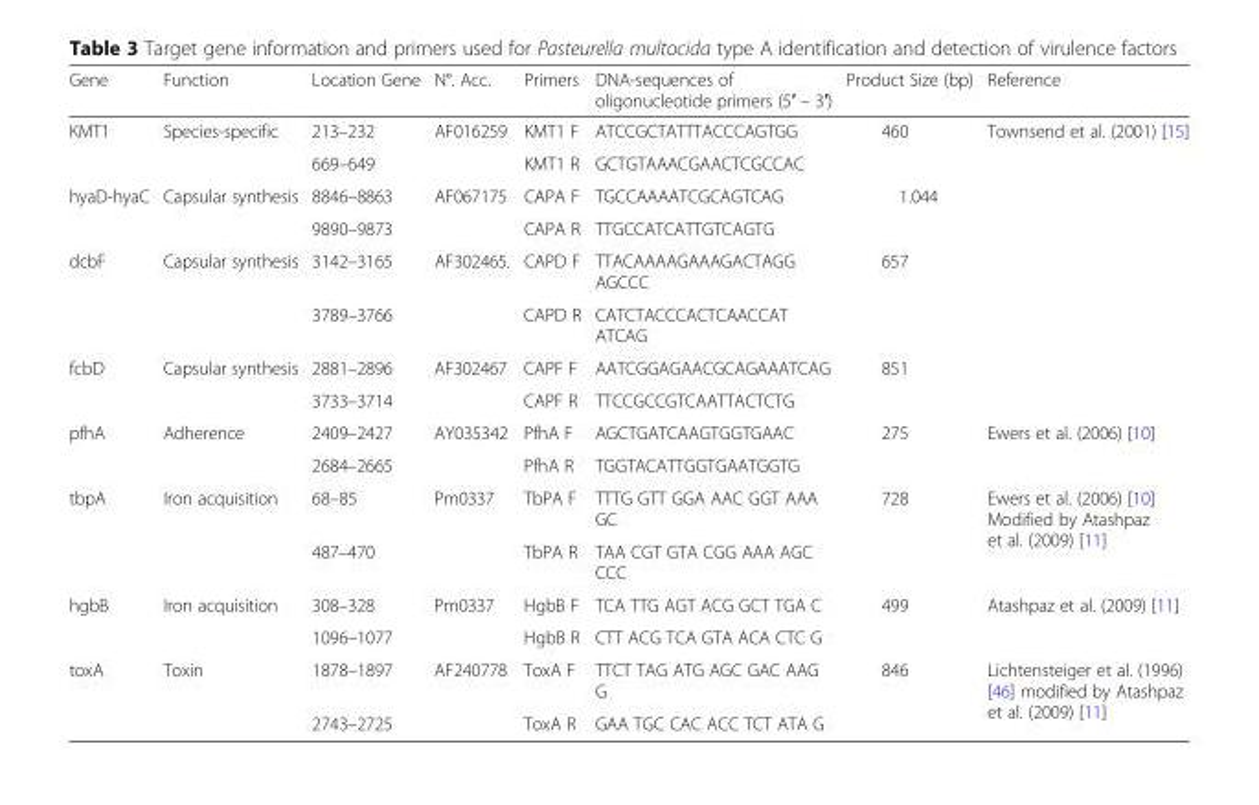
<table><thead><tr><td>Gene</td><td>Function</td><td>Location Gene</td><td>N°. Acc.</td><td>Primers</td><td>DNA-sequences of oligonucleotide primers (5′ – 3′)</td><td>Product Size (bp)</td><td>Reference</td></tr></thead><tbody><tr><td rowspan="2">KMT1</td><td rowspan="2">Species-specific</td><td>213–232</td><td rowspan="2">AF016259</td><td>KMT1 F</td><td>ATCCGCTATTTACCCAGTGG</td><td rowspan="2">460</td><td rowspan="8">Townsend et al. (2001) [15]</td></tr><tr><td>669–649</td><td>KMT1 R</td><td>GCTGTAAACGAACTCGCCAC</td></tr><tr><td rowspan="2">hyaD-hyaC</td><td rowspan="2">Capsular synthesis</td><td>8846–8863</td><td rowspan="2">AF067175</td><td>CAPA F</td><td>TGCCAAAATCGCAGTCAG</td><td rowspan="2">1.044</td></tr><tr><td>9890–9873</td><td>CAPA R</td><td>TTGCCATCATTGTCAGTG</td></tr><tr><td rowspan="2">dcbF</td><td rowspan="2">Capsular synthesis</td><td>3142–3165</td><td rowspan="2">AF302465.</td><td>CAPD F</td><td>TTACAAAAGAAAGACTAGG AGCCC</td><td rowspan="2">657</td></tr><tr><td>3789–3766</td><td>CAPD R</td><td>CATCTACCCACTCAACCAT ATCAG</td></tr><tr><td rowspan="2">fcbD</td><td rowspan="2">Capsular synthesis</td><td>2881–2896</td><td rowspan="2">AF302467</td><td>CAPF F</td><td>AATCGGAGAACGCAGAAATCAG</td><td rowspan="2">851</td></tr><tr><td>3733–3714</td><td>CAPF R</td><td>TTCCGCCGTCAATTACTCTG</td></tr><tr><td rowspan="2">pfhA</td><td rowspan="2">Adherence</td><td>2409–2427</td><td rowspan="2">AY035342</td><td>PfhA F</td><td>AGCTGATCAAGTGGTGAAC</td><td rowspan="2">275</td><td rowspan="2">Ewers et al. (2006) [10]</td></tr><tr><td>2684–2665</td><td>PfhA R</td><td>TGGTACATTGGTGAATGGTG</td></tr><tr><td rowspan="2">tbpA</td><td rowspan="2">Iron acquisition</td><td>68–85</td><td rowspan="2">Pm0337</td><td>TbPA F</td><td>TTTG GTT GGA AAC GGT AAA GC</td><td rowspan="2">728</td><td rowspan="2">Ewers et al. (2006) [10] Modified by Atashpaz et al. (2009) [11]</td></tr><tr><td>487–470</td><td>TbPA R</td><td>TAA CGT GTA CGG AAA AGC CCC</td></tr><tr><td rowspan="2">hgbB</td><td rowspan="2">Iron acquisition</td><td>308–328</td><td rowspan="2">Pm0337</td><td>HgbB F</td><td>TCA TTG AGT ACG GCT TGA C</td><td rowspan="2">499</td><td rowspan="2">Atashpaz et al. (2009) [11]</td></tr><tr><td>1096–1077</td><td>HgbB R</td><td>CTT ACG TCA GTA ACA CTC G</td></tr><tr><td rowspan="2">toxA</td><td rowspan="2">Toxin</td><td>1878–1897</td><td rowspan="2">AF240778</td><td>ToxA F</td><td>TTCT TAG ATG AGC GAC AAG G</td><td rowspan="2">846</td><td rowspan="2">Lichtensteiger et al. (1996) [46] modified by Atashpaz et al. (2009) [11]</td></tr><tr><td>2743–2725</td><td>ToxA R</td><td>GAA TGC CAC ACC TCT ATA G</td></tr></tbody></table>